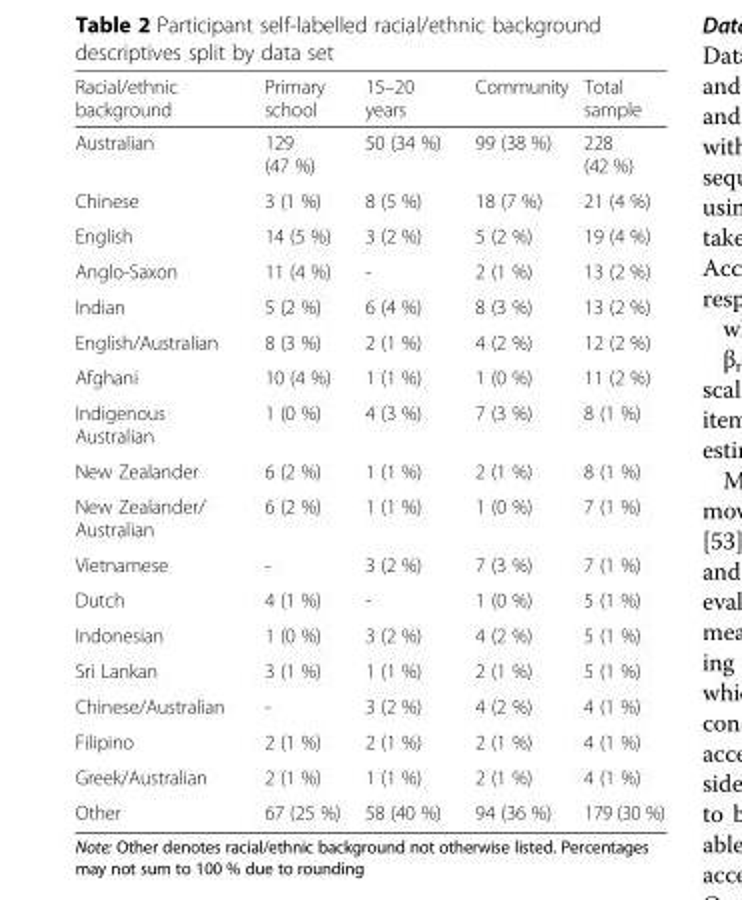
<table><thead><tr><td>Racial/ethnic background</td><td>Primary school</td><td>15–20 years</td><td>Community</td><td>Total sample</td></tr></thead><tbody><tr><td>Australian</td><td>129 (47 %)</td><td>50 (34 %)</td><td>99 (38 %)</td><td>228 (42 %)</td></tr><tr><td>Chinese</td><td>3 (1 %)</td><td>8 (5 %)</td><td>18 (7 %)</td><td>21 (4 %)</td></tr><tr><td>English</td><td>14 (5 %)</td><td>3 (2 %)</td><td>5 (2 %)</td><td>19 (4 %)</td></tr><tr><td>Anglo-Saxon</td><td>11 (4 %)</td><td>-</td><td>2 (1 %)</td><td>13 (2 %)</td></tr><tr><td>Indian</td><td>5 (2 %)</td><td>6 (4 %)</td><td>8 (3 %)</td><td>13 (2 %)</td></tr><tr><td>English/Australian</td><td>8 (3 %)</td><td>2 (1 %)</td><td>4 (2 %)</td><td>12 (2 %)</td></tr><tr><td>Afghani</td><td>10 (4 %)</td><td>1 (1 %)</td><td>1 (0 %)</td><td>11 (2 %)</td></tr><tr><td>Indigenous Australian</td><td>1 (0 %)</td><td>4 (3 %)</td><td>7 (3 %)</td><td>8 (1 %)</td></tr><tr><td>New Zealander</td><td>6 (2 %)</td><td>1 (1 %)</td><td>2 (1 %)</td><td>8 (1 %)</td></tr><tr><td>New Zealander/ Australian</td><td>6 (2 %)</td><td>1 (1 %)</td><td>1 (0 %)</td><td>7 (1 %)</td></tr><tr><td>Vietnamese</td><td>-</td><td>3 (2 %)</td><td>7 (3 %)</td><td>7 (1 %)</td></tr><tr><td>Dutch</td><td>4 (1 %)</td><td>-</td><td>1 (0 %)</td><td>5 (1 %)</td></tr><tr><td>Indonesian</td><td>1 (0 %)</td><td>3 (2 %)</td><td>4 (2 %)</td><td>5 (1 %)</td></tr><tr><td>Sri Lankan</td><td>3 (1 %)</td><td>1 (1 %)</td><td>2 (1 %)</td><td>5 (1 %)</td></tr><tr><td>Chinese/Australian</td><td>-</td><td>3 (2 %)</td><td>4 (2 %)</td><td>4 (1 %)</td></tr><tr><td>Filipino</td><td>2 (1 %)</td><td>2 (1 %)</td><td>2 (1 %)</td><td>4 (1 %)</td></tr><tr><td>Greek/Australian</td><td>2 (1 %)</td><td>1 (1 %)</td><td>2 (1 %)</td><td>4 (1 %)</td></tr><tr><td>Other</td><td>67 (25 %)</td><td>58 (40 %)</td><td>94 (36 %)</td><td>179 (30 %)</td></tr></tbody></table>